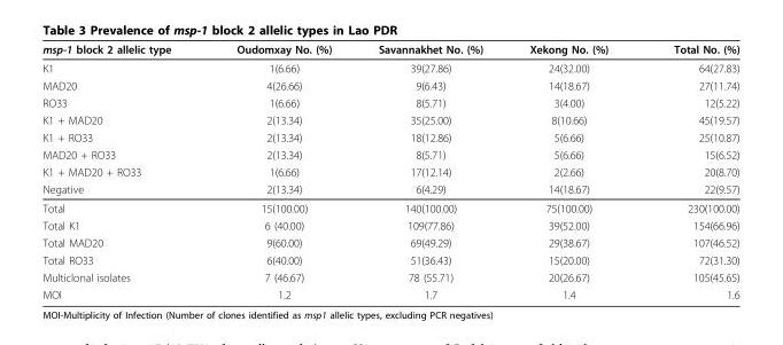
<table><thead><tr><td>msp-1 block 2 allelic type</td><td>Oudomxay No. (%)</td><td>Savannakhet No. (%)</td><td>Xekong No. (%)</td><td>Total No. (%)</td></tr></thead><tbody><tr><td>K1</td><td>1(6.66)</td><td>39(27.86)</td><td>24(32.00)</td><td>64(27.83)</td></tr><tr><td>MAD20</td><td>4(26.66)</td><td>9(6.43)</td><td>14(18.67)</td><td>27(11.74)</td></tr><tr><td>RO33</td><td>1(6.66)</td><td>8(5.71)</td><td>3(4.00)</td><td>12(5.22)</td></tr><tr><td>K1 + MAD20</td><td>2(13.34)</td><td>35(25.00)</td><td>8(10.66)</td><td>45(19.57)</td></tr><tr><td>K1 + RO33</td><td>2(13.34)</td><td>18(12.86)</td><td>5(6.66)</td><td>25(10.87)</td></tr><tr><td>MAD20 + RO33</td><td>2(13.34)</td><td>8(5.71)</td><td>5(6.66)</td><td>15(6.52)</td></tr><tr><td>K1 + MAD20 + RO33</td><td>1(6.66)</td><td>17(12.14)</td><td>2(2.66)</td><td>20(8.70)</td></tr><tr><td>Negative</td><td>2(13.34)</td><td>6(4.29)</td><td>14(18.67)</td><td>22(9.57)</td></tr><tr><td>Total</td><td>15(100.00)</td><td>140(100.00)</td><td>75(100.00)</td><td>230(100.00)</td></tr><tr><td>Total K1</td><td>6 (40.00)</td><td>109(77.86)</td><td>39(52.00)</td><td>154(66.96)</td></tr><tr><td>Total MAD20</td><td>9(60.00)</td><td>69(49.29)</td><td>29(38.67)</td><td>107(46.52)</td></tr><tr><td>Total RO33</td><td>6(40.00)</td><td>51(36.43)</td><td>15(20.00)</td><td>72(31.30)</td></tr><tr><td>Multiclonal isolates</td><td>7 (46.67)</td><td>78 (55.71)</td><td>20(26.67)</td><td>105(45.65)</td></tr><tr><td>MOI</td><td>1.2</td><td>1.7</td><td>1.4</td><td>1.6</td></tr></tbody></table>